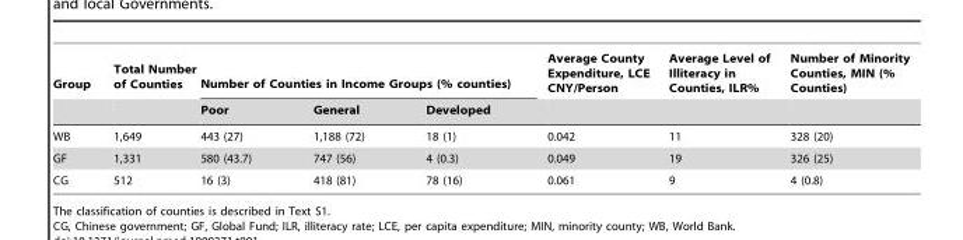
<table><thead><tr><td rowspan="2">Group</td><td rowspan="2">Total Number of Counties</td><td colspan="3">Number of Counties in Income Groups (% counties)</td><td rowspan="2">Average County Expenditure, LCE CNY/Person</td><td rowspan="2">Average Level of Illiteracy in Counties, ILR%</td><td rowspan="2">Number of Minority Counties, MIN (% Counties)</td></tr><tr><td>Poor</td><td>General</td><td>Developed</td></tr></thead><tbody><tr><td>WB</td><td>1,649</td><td>443 (27)</td><td>1,188 (72)</td><td>18 (1)</td><td>0.042</td><td>11</td><td>328 (20)</td></tr><tr><td>GF</td><td>1,331</td><td>580 (43.7)</td><td>747 (56)</td><td>4 (0.3)</td><td>0.049</td><td>19</td><td>326 (25)</td></tr><tr><td>CG</td><td>512</td><td>16 (3)</td><td>418 (81)</td><td>78 (16)</td><td>0.061</td><td>9</td><td>4 (0.8)</td></tr></tbody></table>